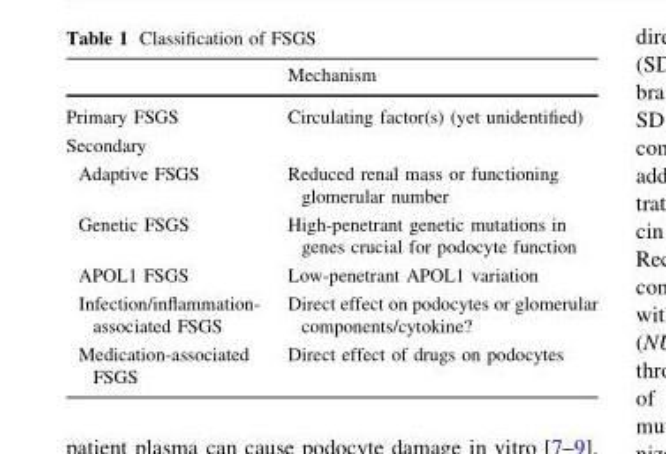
<table><thead><tr><td></td><td>Mechanism</td></tr></thead><tbody><tr><td>Primary FSGS</td><td>Circulating factor(s) (yet unidentified)</td></tr><tr><td colspan="2">Secondary</td></tr><tr><td>Adaptive FSGS</td><td>Reduced renal mass or functioning glomerular number</td></tr><tr><td>Genetic FSGS</td><td>High-penetrant genetic mutations in genes crucial for podocyte function</td></tr><tr><td>APOL1 FSGS</td><td>Low-penetrant APOL1 variation</td></tr><tr><td>Infection/inflammation- associated FSGS</td><td>Direct effect on podocytes or glomerular components/cytokine?</td></tr><tr><td>Medication-associated FSGS</td><td>Direct effect of drugs on podocytes</td></tr></tbody></table>